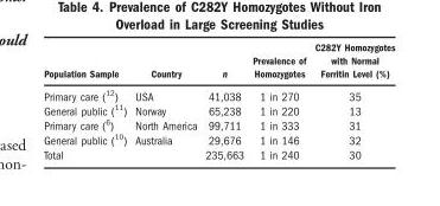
<table><thead><tr><td>Population Sample</td><td>Country</td><td>n</td><td>Prevalence of Homozygotes</td><td>C282Y Homozygotes with Normal Ferritin Level (%)</td></tr></thead><tbody><tr><td>Primary care (12)</td><td>USA</td><td>41,038</td><td>1 in 270</td><td>35</td></tr><tr><td>General public (11)</td><td>Norway</td><td>65,238</td><td>1 in 220</td><td>13</td></tr><tr><td>Primary care (6)</td><td>North America</td><td>99,711</td><td>1 in 333</td><td>31</td></tr><tr><td>General public (10)</td><td>Australia</td><td>29,676</td><td>1 in 146</td><td>32</td></tr><tr><td>Total</td><td></td><td>235,663</td><td>1 in 240</td><td>30</td></tr></tbody></table>